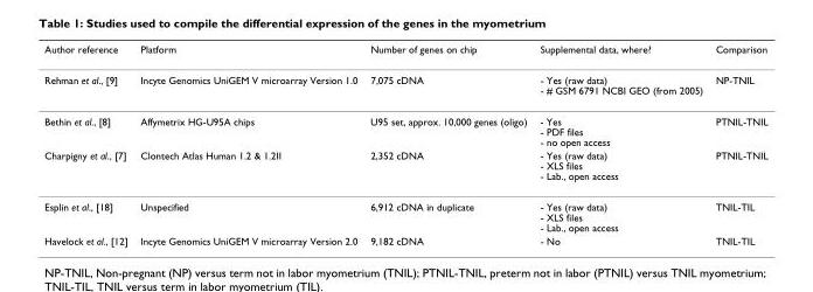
<table><thead><tr><td>Author reference</td><td>Platform</td><td>Number of genes on chip</td><td>Supplemental data, where?</td><td>Comparison</td></tr></thead><tbody><tr><td>Rehman et al., [9]</td><td>Incyte Genomics UniGEM V microarray Version 1.0</td><td>7,075 cDNA</td><td>- Yes (raw data) - # GSM 6791 NCBI GEO (from 2005)</td><td>NP-TNIL</td></tr><tr><td>Bethin et al., [8]</td><td>Affymetrix HG-U95A chips</td><td>U95 set, approx. 10,000 genes (oligo)</td><td>- Yes - PDF files - no open access</td><td>PTNIL-TNIL</td></tr><tr><td>Charpigny et al., [7]</td><td>Clontech Atlas Human 1.2 &amp; 1.2II</td><td>2,352 cDNA</td><td>- Yes (raw data) - XLS files - Lab., open access</td><td>PTNIL-TNIL</td></tr><tr><td>Esplin et al., [18]</td><td>Unspecified</td><td>6,912 cDNA in duplicate</td><td>- Yes (raw data) - XLS files - Lab., open access</td><td>TNIL-TIL</td></tr><tr><td>Havelock et al., [12]</td><td>Incyte Genomics UniGEM V microarray Version 2.0</td><td>9,182 cDNA</td><td>- No</td><td>TNIL-TIL</td></tr></tbody></table>